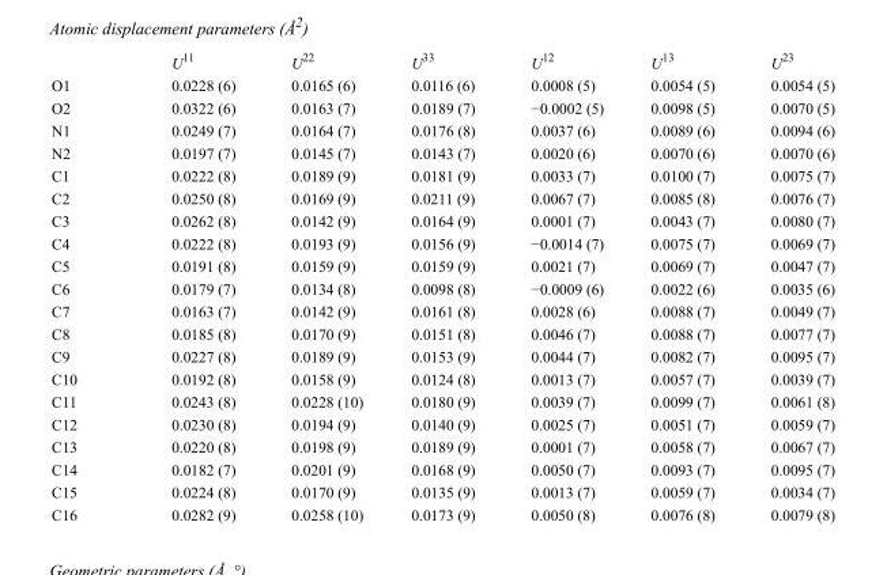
<table><thead><tr><td></td><td>U<sup>11</sup></td><td>U<sup>22</sup></td><td>U<sup>33</sup></td><td>U<sup>12</sup></td><td>U<sup>13</sup></td><td>U<sup>23</sup></td></tr></thead><tbody><tr><td>O1</td><td>0.0228 (6)</td><td>0.0165 (6)</td><td>0.0116 (6)</td><td>0.0008 (5)</td><td>0.0054 (5)</td><td>0.0054 (5)</td></tr><tr><td>O2</td><td>0.0322 (6)</td><td>0.0163 (7)</td><td>0.0189 (7)</td><td>−0.0002 (5)</td><td>0.0098 (5)</td><td>0.0070 (5)</td></tr><tr><td>N1</td><td>0.0249 (7)</td><td>0.0164 (7)</td><td>0.0176 (8)</td><td>0.0037 (6)</td><td>0.0089 (6)</td><td>0.0094 (6)</td></tr><tr><td>N2</td><td>0.0197 (7)</td><td>0.0145 (7)</td><td>0.0143 (7)</td><td>0.0020 (6)</td><td>0.0070 (6)</td><td>0.0070 (6)</td></tr><tr><td>C1</td><td>0.0222 (8)</td><td>0.0189 (9)</td><td>0.0181 (9)</td><td>0.0033 (7)</td><td>0.0100 (7)</td><td>0.0075 (7)</td></tr><tr><td>C2</td><td>0.0250 (8)</td><td>0.0169 (9)</td><td>0.0211 (9)</td><td>0.0067 (7)</td><td>0.0085 (8)</td><td>0.0076 (7)</td></tr><tr><td>C3</td><td>0.0262 (8)</td><td>0.0142 (9)</td><td>0.0164 (9)</td><td>0.0001 (7)</td><td>0.0043 (7)</td><td>0.0080 (7)</td></tr><tr><td>C4</td><td>0.0222 (8)</td><td>0.0193 (9)</td><td>0.0156 (9)</td><td>−0.0014 (7)</td><td>0.0075 (7)</td><td>0.0069 (7)</td></tr><tr><td>C5</td><td>0.0191 (8)</td><td>0.0159 (9)</td><td>0.0159 (9)</td><td>0.0021 (7)</td><td>0.0069 (7)</td><td>0.0047 (7)</td></tr><tr><td>C6</td><td>0.0179 (7)</td><td>0.0134 (8)</td><td>0.0098 (8)</td><td>−0.0009 (6)</td><td>0.0022 (6)</td><td>0.0035 (6)</td></tr><tr><td>C7</td><td>0.0163 (7)</td><td>0.0142 (9)</td><td>0.0161 (8)</td><td>0.0028 (6)</td><td>0.0088 (7)</td><td>0.0049 (7)</td></tr><tr><td>C8</td><td>0.0185 (8)</td><td>0.0170 (9)</td><td>0.0151 (8)</td><td>0.0046 (7)</td><td>0.0088 (7)</td><td>0.0077 (7)</td></tr><tr><td>C9</td><td>0.0227 (8)</td><td>0.0189 (9)</td><td>0.0153 (9)</td><td>0.0044 (7)</td><td>0.0082 (7)</td><td>0.0095 (7)</td></tr><tr><td>C10</td><td>0.0192 (8)</td><td>0.0158 (9)</td><td>0.0124 (8)</td><td>0.0013 (7)</td><td>0.0057 (7)</td><td>0.0039 (7)</td></tr><tr><td>C11</td><td>0.0243 (8)</td><td>0.0228 (10)</td><td>0.0180 (9)</td><td>0.0039 (7)</td><td>0.0099 (7)</td><td>0.0061 (8)</td></tr><tr><td>C12</td><td>0.0230 (8)</td><td>0.0194 (9)</td><td>0.0140 (9)</td><td>0.0025 (7)</td><td>0.0051 (7)</td><td>0.0059 (7)</td></tr><tr><td>C13</td><td>0.0220 (8)</td><td>0.0198 (9)</td><td>0.0189 (9)</td><td>0.0001 (7)</td><td>0.0058 (7)</td><td>0.0067 (7)</td></tr><tr><td>C14</td><td>0.0182 (7)</td><td>0.0201 (9)</td><td>0.0168 (9)</td><td>0.0050 (7)</td><td>0.0093 (7)</td><td>0.0095 (7)</td></tr><tr><td>C15</td><td>0.0224 (8)</td><td>0.0170 (9)</td><td>0.0135 (9)</td><td>0.0013 (7)</td><td>0.0059 (7)</td><td>0.0034 (7)</td></tr><tr><td>C16</td><td>0.0282 (9)</td><td>0.0258 (10)</td><td>0.0173 (9)</td><td>0.0050 (8)</td><td>0.0076 (8)</td><td>0.0079 (8)</td></tr></tbody></table>